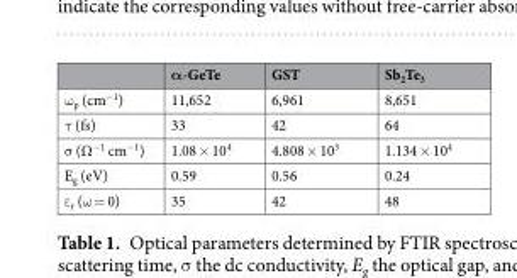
<table><thead><tr><td></td><td>α-GeTe</td><td>GST</td><td>Sb<sub>2</sub>Te<sub>3</sub></td></tr></thead><tbody><tr><td>ω<sub>p</sub> (cm<sup>−1</sup>)</td><td>11,652</td><td>6,961</td><td>8,651</td></tr><tr><td>τ (fs)</td><td>33</td><td>42</td><td>64</td></tr><tr><td>σ (Ω<sup>−1</sup> cm<sup>−1</sup>)</td><td>1.08 × 10<sup>4</sup></td><td>4.808 × 10<sup>3</sup></td><td>1.134 × 10<sup>4</sup></td></tr><tr><td>E<sub>g</sub> (eV)</td><td>0.59</td><td>0.56</td><td>0.24</td></tr><tr><td>ε<sub>r</sub> (ω = 0)</td><td>35</td><td>42</td><td>48</td></tr></tbody></table>